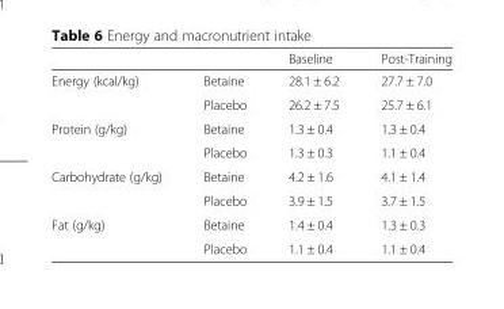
<table><thead><tr><td></td><td></td><td>Baseline</td><td>Post-Training</td></tr></thead><tbody><tr><td rowspan="2">Energy (kcal/kg)</td><td>Betaine</td><td>28.1 ± 6.2</td><td>27.7 ± 7.0</td></tr><tr><td>Placebo</td><td>26.2 ± 7.5</td><td>25.7 ± 6.1</td></tr><tr><td rowspan="2">Protein (g/kg)</td><td>Betaine</td><td>1.3 ± 0.4</td><td>1.3 ± 0.4</td></tr><tr><td>Placebo</td><td>1.3 ± 0.3</td><td>1.1 ± 0.4</td></tr><tr><td rowspan="2">Carbohydrate (g/kg)</td><td>Betaine</td><td>4.2 ± 1.6</td><td>4.1 ± 1.4</td></tr><tr><td>Placebo</td><td>3.9 ± 1.5</td><td>3.7 ± 1.5</td></tr><tr><td rowspan="2">Fat (g/kg)</td><td>Betaine</td><td>1.4 ± 0.4</td><td>1.3 ± 0.3</td></tr><tr><td>Placebo</td><td>1.1 ± 0.4</td><td>1.1 ± 0.4</td></tr></tbody></table>